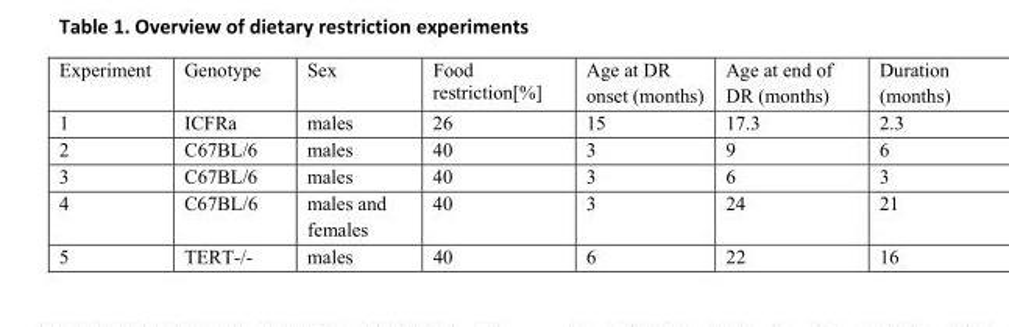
<table><thead><tr><td>Experiment</td><td>Genotype</td><td>Sex</td><td>Food restriction[%]</td><td>Age at DR onset (months)</td><td>Age at end of DR (months)</td><td>Duration (months)</td></tr></thead><tbody><tr><td>1</td><td>ICFRa</td><td>males</td><td>26</td><td>15</td><td>17.3</td><td>2.3</td></tr><tr><td>2</td><td>C67BL/6</td><td>males</td><td>40</td><td>3</td><td>9</td><td>6</td></tr><tr><td>3</td><td>C67BL/6</td><td>males</td><td>40</td><td>3</td><td>6</td><td>3</td></tr><tr><td>4</td><td>C67BL/6</td><td>males and females</td><td>40</td><td>3</td><td>24</td><td>21</td></tr><tr><td>5</td><td>TERT-/-</td><td>males</td><td>40</td><td>6</td><td>22</td><td>16</td></tr></tbody></table>